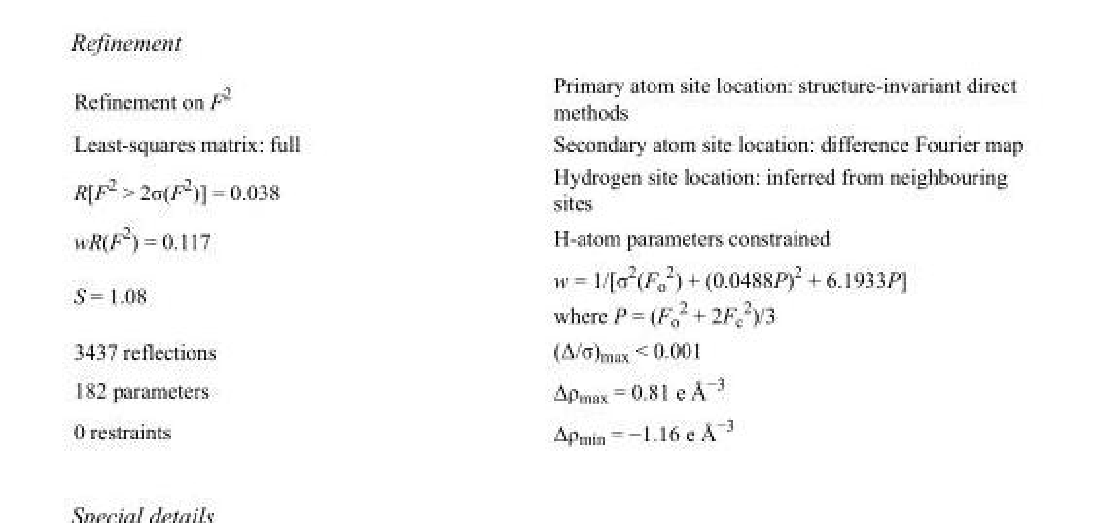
<table><tbody><tr><td>Refinement on F<sup>2</sup></td><td>Primary atom site location: structure-invariant direct methods</td></tr><tr><td>Least-squares matrix: full</td><td>Secondary atom site location: difference Fourier map</td></tr><tr><td>R[F<sup>2</sup> &gt; 2σ(F<sup>2</sup>)] = 0.038</td><td>Hydrogen site location: inferred from neighbouring sites</td></tr><tr><td>wR(F<sup>2</sup>) = 0.117</td><td>H-atom parameters constrained</td></tr><tr><td>S = 1.08</td><td>w = 1/[σ<sup>2</sup>(F<sub>o</sub> <sup>2</sup>) + (0.0488P)<sup>2</sup> + 6.1933P] where P = (F<sub>o</sub> <sup>2</sup> + 2F<sub>c</sub> <sup>2</sup>)/3</td></tr><tr><td>3437 reflections</td><td>(Δ/σ)<sub>max</sub> &lt; 0.001</td></tr><tr><td>182 parameters</td><td>Δρ<sub>max</sub> = 0.81 e Å<sup>−3</sup></td></tr><tr><td>0 restraints</td><td>Δρ<sub>min</sub> = −1.16 e Å<sup>−3</sup></td></tr></tbody></table>